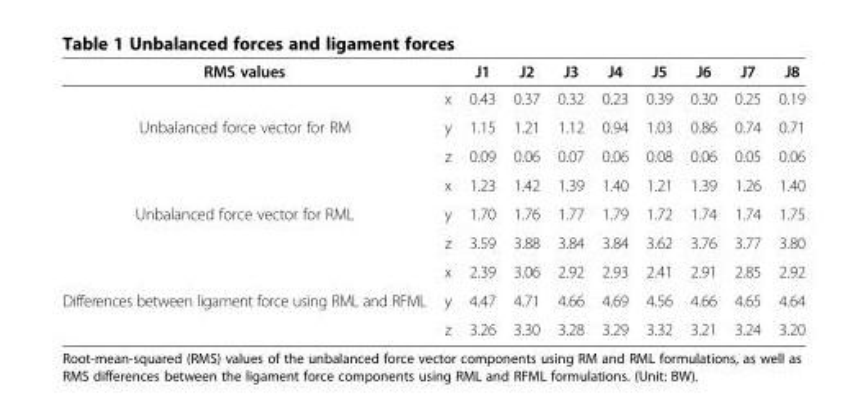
<table><thead><tr><td>RMS values</td><td></td><td>J1</td><td>J2</td><td>J3</td><td>J4</td><td>J5</td><td>J6</td><td>J7</td><td>J8</td></tr></thead><tbody><tr><td rowspan="3">Unbalanced force vector for RM</td><td>x</td><td>0.43</td><td>0.37</td><td>0.32</td><td>0.23</td><td>0.39</td><td>0.30</td><td>0.25</td><td>0.19</td></tr><tr><td>y</td><td>1.15</td><td>1.21</td><td>1.12</td><td>0.94</td><td>1.03</td><td>0.86</td><td>0.74</td><td>0.71</td></tr><tr><td>z</td><td>0.09</td><td>0.06</td><td>0.07</td><td>0.06</td><td>0.08</td><td>0.06</td><td>0.05</td><td>0.06</td></tr><tr><td rowspan="3">Unbalanced force vector for RML</td><td>x</td><td>1.23</td><td>1.42</td><td>1.39</td><td>1.40</td><td>1.21</td><td>1.39</td><td>1.26</td><td>1.40</td></tr><tr><td>y</td><td>1.70</td><td>1.76</td><td>1.77</td><td>1.79</td><td>1.72</td><td>1.74</td><td>1.74</td><td>1.75</td></tr><tr><td>z</td><td>3.59</td><td>3.88</td><td>3.84</td><td>3.84</td><td>3.62</td><td>3.76</td><td>3.77</td><td>3.80</td></tr><tr><td rowspan="3">Differences between ligament force using RML and RFML</td><td>x</td><td>2.39</td><td>3.06</td><td>2.92</td><td>2.93</td><td>2.41</td><td>2.91</td><td>2.85</td><td>2.92</td></tr><tr><td>y</td><td>4.47</td><td>4.71</td><td>4.66</td><td>4.69</td><td>4.56</td><td>4.66</td><td>4.65</td><td>4.64</td></tr><tr><td>z</td><td>3.26</td><td>3.30</td><td>3.28</td><td>3.29</td><td>3.32</td><td>3.21</td><td>3.24</td><td>3.20</td></tr></tbody></table>